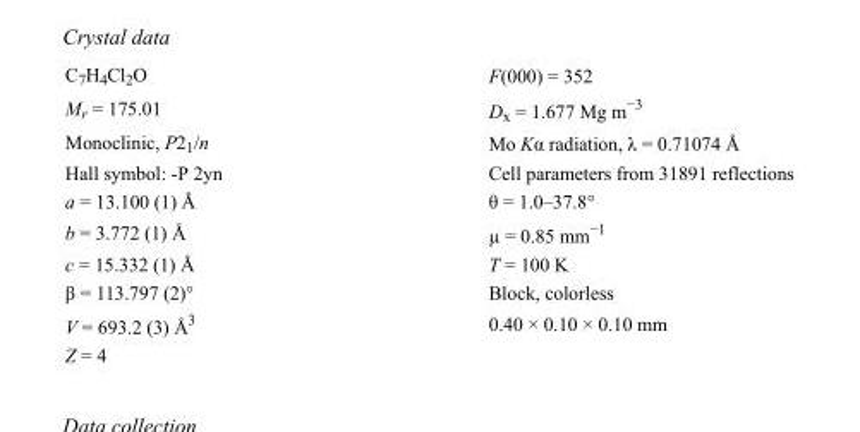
<table><tbody><tr><td>C<sub>7</sub>H<sub>4</sub>Cl<sub>2</sub>O</td><td>F(000) = 352</td></tr><tr><td>M<sub>r</sub> = 175.01</td><td>D<sub>x</sub> = 1.677 Mg m<sup>−3</sup></td></tr><tr><td>Monoclinic, P2<sub>1</sub>/n</td><td>Mo Kα radiation, λ = 0.71074 Å</td></tr><tr><td>Hall symbol: -P 2yn</td><td>Cell parameters from 31891 reflections</td></tr><tr><td>a = 13.100 (1) Å</td><td>θ = 1.0–37.8°</td></tr><tr><td>b = 3.772 (1) Å</td><td>µ = 0.85 mm<sup>−1</sup></td></tr><tr><td>c = 15.332 (1) Å</td><td>T = 100 K</td></tr><tr><td>β = 113.797 (2)°</td><td>Block, colorless</td></tr><tr><td>V = 693.2 (3) Å<sup>3</sup></td><td>0.40 × 0.10 × 0.10 mm</td></tr><tr><td>Z = 4</td><td></td></tr></tbody></table>